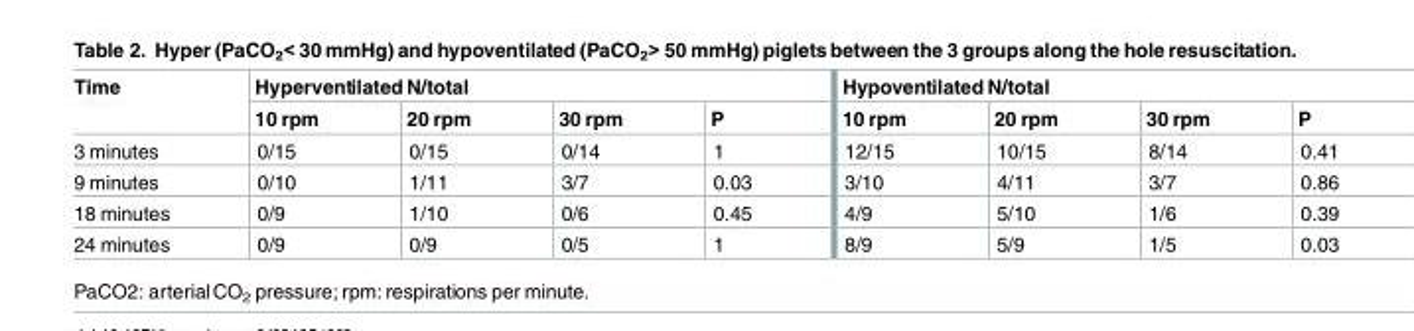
<table><thead><tr><td rowspan="2">Time</td><td colspan="4">Hyperventilated N/total</td><td colspan="4">Hypoventilated N/total</td></tr><tr><td>10 rpm</td><td>20 rpm</td><td>30 rpm</td><td>P</td><td>10 rpm</td><td>20 rpm</td><td>30 rpm</td><td>P</td></tr></thead><tbody><tr><td>3 minutes</td><td>0/15</td><td>0/15</td><td>0/14</td><td>1</td><td>12/15</td><td>10/15</td><td>8/14</td><td>0.41</td></tr><tr><td>9 minutes</td><td>0/10</td><td>1/11</td><td>3/7</td><td>0.03</td><td>3/10</td><td>4/11</td><td>3/7</td><td>0.86</td></tr><tr><td>18 minutes</td><td>0/9</td><td>1/10</td><td>0/6</td><td>0.45</td><td>4/9</td><td>5/10</td><td>1/6</td><td>0.39</td></tr><tr><td>24 minutes</td><td>0/9</td><td>0/9</td><td>0/5</td><td>1</td><td>8/9</td><td>5/9</td><td>1/5</td><td>0.03</td></tr></tbody></table>